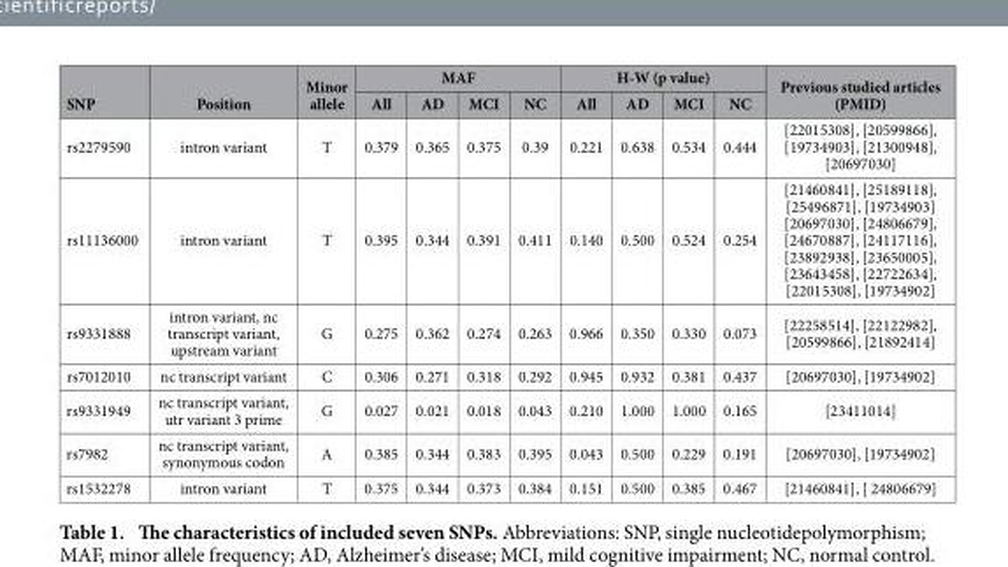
<table><thead><tr><td rowspan="2">SNP</td><td rowspan="2">Position</td><td rowspan="2">Minor allele</td><td colspan="4">MAF</td><td colspan="4">H-W (p value)</td><td rowspan="2">Previous studied articles (PMID)</td></tr><tr><td>All</td><td>AD</td><td>MCI</td><td>NC</td><td>All</td><td>AD</td><td>MCI</td><td>NC</td></tr></thead><tbody><tr><td>rs2279590</td><td>intron variant</td><td>T</td><td>0.379</td><td>0.365</td><td>0.375</td><td>0.39</td><td>0.221</td><td>0.638</td><td>0.534</td><td>0.444</td><td>[22015308], [20599866], [19734903], [21300948], [20697030]</td></tr><tr><td>rs11136000</td><td>intron variant</td><td>T</td><td>0.395</td><td>0.344</td><td>0.391</td><td>0.411</td><td>0.140</td><td>0.500</td><td>0.524</td><td>0.254</td><td>[21460841], [25189118], [25496871], [19734903] [20697030], [24806679], [24670887], [24117116], [23892938], [23650005], [23643458], [22722634], [22015308], [19734902]</td></tr><tr><td>rs9331888</td><td>intron variant, nc transcript variant, upstream variant</td><td>G</td><td>0.275</td><td>0.362</td><td>0.274</td><td>0.263</td><td>0.966</td><td>0.350</td><td>0.330</td><td>0.073</td><td>[22258514], [22122982], [20599866], [21892414]</td></tr><tr><td>rs7012010</td><td>nc transcript variant</td><td>C</td><td>0.306</td><td>0.271</td><td>0.318</td><td>0.292</td><td>0.945</td><td>0.932</td><td>0.381</td><td>0.437</td><td>[20697030], [19734902]</td></tr><tr><td>rs9331949</td><td>nc transcript variant, utr variant 3 prime</td><td>G</td><td>0.027</td><td>0.021</td><td>0.018</td><td>0.043</td><td>0.210</td><td>1.000</td><td>1.000</td><td>0.165</td><td>[23411014]</td></tr><tr><td>rs7982</td><td>nc transcript variant, synonymous codon</td><td>A</td><td>0.385</td><td>0.344</td><td>0.383</td><td>0.395</td><td>0.043</td><td>0.500</td><td>0.229</td><td>0.191</td><td>[20697030], [19734902]</td></tr><tr><td>rs1532278</td><td>intron variant</td><td>T</td><td>0.375</td><td>0.344</td><td>0.373</td><td>0.384</td><td>0.151</td><td>0.500</td><td>0.385</td><td>0.467</td><td>[21460841], [ 24806679]</td></tr></tbody></table>